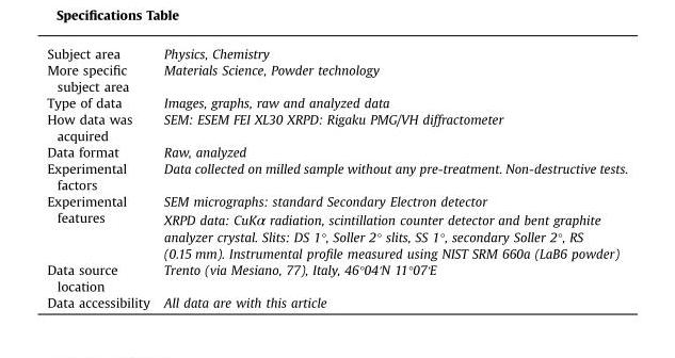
<table><tbody><tr><td>Subject area</td><td>Physics, Chemistry</td></tr><tr><td>More specific subject area</td><td>Materials Science, Powder technology</td></tr><tr><td>Type of data</td><td>Images, graphs, raw and analyzed data</td></tr><tr><td>How data was acquired</td><td>SEM: ESEM FEI XL30 XRPD: Rigaku PMG/VH diffractometer</td></tr><tr><td>Data format</td><td>Raw, analyzed</td></tr><tr><td>Experimental factors</td><td>Data collected on milled sample without any pre-treatment. Non-destructive tests.</td></tr><tr><td rowspan="2">Experimental features</td><td>SEM micrographs: standard Secondary Electron detector</td></tr><tr><td>XRPD data: CuKα radiation, scintillation counter detector and bent graphite analyzer crystal. Slits: DS 1°, Soller 2° slits, SS 1°, secondary Soller 2°, RS (0.15 mm). Instrumental profile measured using NIST SRM 660a (LaB6 powder)</td></tr><tr><td>Data source location</td><td>Trento (via Mesiano, 77), Italy, 46°04&#x27;N 11°07&#x27;E</td></tr><tr><td>Data accessibility</td><td>All data are with this article</td></tr></tbody></table>